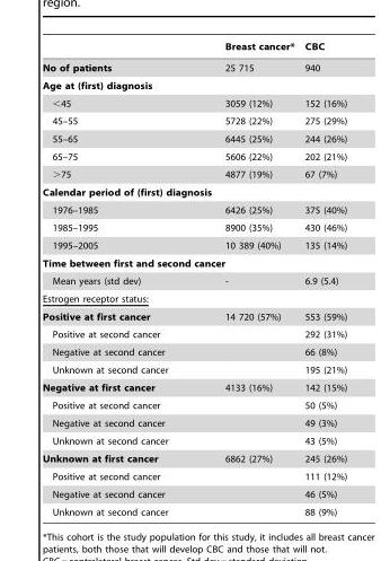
<table><thead><tr><td></td><td>Breast cancer*</td><td>CBC</td></tr></thead><tbody><tr><td>No of patients</td><td>25 715</td><td>940</td></tr><tr><td colspan="3">Age at (first) diagnosis</td></tr><tr><td>&lt;45</td><td>3059 (12%)</td><td>152 (16%)</td></tr><tr><td>45–55</td><td>5728 (22%)</td><td>275 (29%)</td></tr><tr><td>55–65</td><td>6445 (25%)</td><td>244 (26%)</td></tr><tr><td>65–75</td><td>5606 (22%)</td><td>202 (21%)</td></tr><tr><td>&gt;75</td><td>4877 (19%)</td><td>67 (7%)</td></tr><tr><td colspan="3">Calendar period of (first) diagnosis</td></tr><tr><td>1976–1985</td><td>6426 (25%)</td><td>375 (40%)</td></tr><tr><td>1985–1995</td><td>8900 (35%)</td><td>430 (46%)</td></tr><tr><td>1995–2005</td><td>10 389 (40%)</td><td>135 (14%)</td></tr><tr><td colspan="3">Time between first and second cancer</td></tr><tr><td>Mean years (std dev)</td><td>-</td><td>6.9 (5.4)</td></tr><tr><td colspan="3">Estrogen receptor status:</td></tr><tr><td>Positive at first cancer</td><td>14 720 (57%)</td><td>553 (59%)</td></tr><tr><td>Positive at second cancer</td><td></td><td>292 (31%)</td></tr><tr><td>Negative at second cancer</td><td></td><td>66 (8%)</td></tr><tr><td>Unknown at second cancer</td><td></td><td>195 (21%)</td></tr><tr><td>Negative at first cancer</td><td>4133 (16%)</td><td>142 (15%)</td></tr><tr><td>Positive at second cancer</td><td></td><td>50 (5%)</td></tr><tr><td>Negative at second cancer</td><td></td><td>49 (3%)</td></tr><tr><td>Unknown at second cancer</td><td></td><td>43 (5%)</td></tr><tr><td>Unknown at first cancer</td><td>6862 (27%)</td><td>245 (26%)</td></tr><tr><td>Positive at second cancer</td><td></td><td>111 (12%)</td></tr><tr><td>Negative at second cancer</td><td></td><td>46 (5%)</td></tr><tr><td>Unknown at second cancer</td><td></td><td>88 (9%)</td></tr></tbody></table>